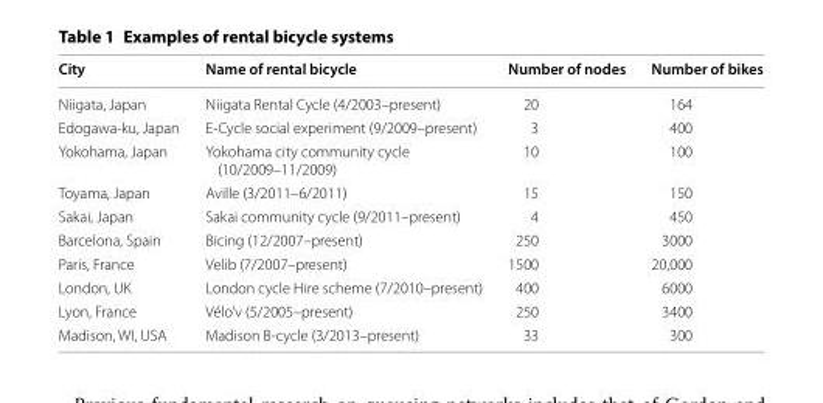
<table><thead><tr><td>City</td><td>Name of rental bicycle</td><td>Number of nodes</td><td>Number of bikes</td></tr></thead><tbody><tr><td>Niigata, Japan</td><td>Niigata Rental Cycle (4/2003–present)</td><td>20</td><td>164</td></tr><tr><td>Edogawa‑ku, Japan</td><td>E‑Cycle social experiment (9/2009–present)</td><td>3</td><td>400</td></tr><tr><td>Yokohama, Japan</td><td>Yokohama city community cycle (10/2009–11/2009)</td><td>10</td><td>100</td></tr><tr><td>Toyama, Japan</td><td>Aville (3/2011–6/2011)</td><td>15</td><td>150</td></tr><tr><td>Sakai, Japan</td><td>Sakai community cycle (9/2011–present)</td><td>4</td><td>450</td></tr><tr><td>Barcelona, Spain</td><td>Bicing (12/2007–present)</td><td>250</td><td>3000</td></tr><tr><td>Paris, France</td><td>Velib (7/2007–present)</td><td>1500</td><td>20,000</td></tr><tr><td>London, UK</td><td>London cycle Hire scheme (7/2010–present)</td><td>400</td><td>6000</td></tr><tr><td>Lyon, France</td><td>Vélo’v (5/2005–present)</td><td>250</td><td>3400</td></tr><tr><td>Madison, WI, USA</td><td>Madison B‑cycle (3/2013–present)</td><td>33</td><td>300</td></tr></tbody></table>